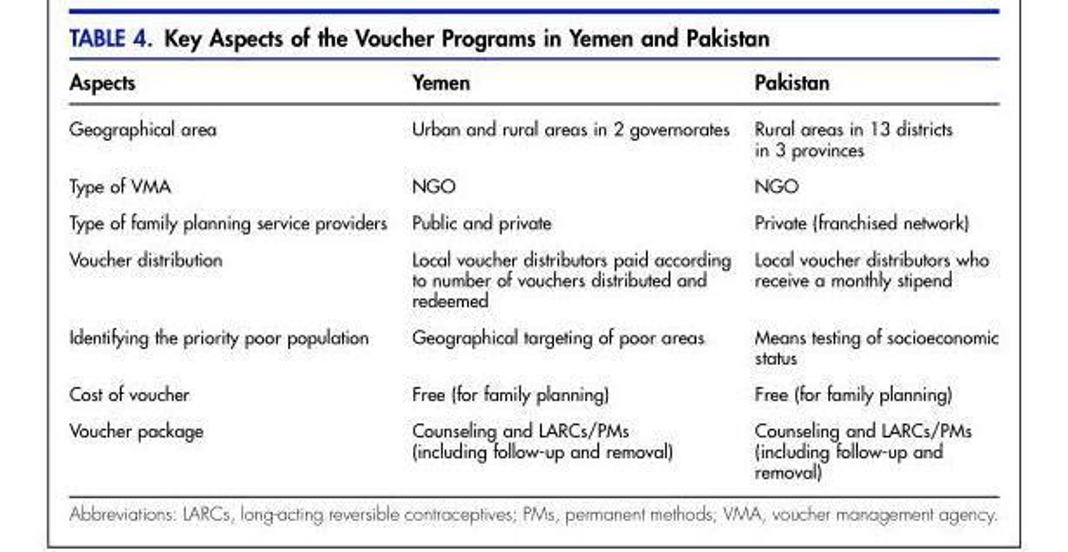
<table><thead><tr><td>Aspects</td><td>Yemen</td><td>Pakistan</td></tr></thead><tbody><tr><td>Geographical area</td><td>Urban and rural areas in 2 governorates</td><td>Rural areas in 13 districts in 3 provinces</td></tr><tr><td>Type of VMA</td><td>NGO</td><td>NGO</td></tr><tr><td>Type of family planning service providers</td><td>Public and private</td><td>Private (franchised network)</td></tr><tr><td>Voucher distribution</td><td>Local voucher distributors paid according to number of vouchers distributed and redeemed</td><td>Local voucher distributors who receive a monthly stipend</td></tr><tr><td>Identifying the priority poor population</td><td>Geographical targeting of poor areas</td><td>Means testing of socioeconomic status</td></tr><tr><td>Cost of voucher</td><td>Free (for family planning)</td><td>Free (for family planning)</td></tr><tr><td>Voucher package</td><td>Counseling and LARCs/PMs (including follow-up and removal)</td><td>Counseling and LARCs/PMs (including follow-up and removal)</td></tr></tbody></table>